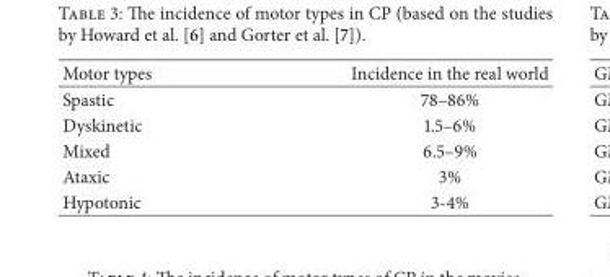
<table><thead><tr><td>Motor types</td><td>Incidence in the real world</td></tr></thead><tbody><tr><td>Spastic</td><td>78–86%</td></tr><tr><td>Dyskinetic</td><td>1.5–6%</td></tr><tr><td>Mixed</td><td>6.5–9%</td></tr><tr><td>Ataxic</td><td>3%</td></tr><tr><td>Hypotonic</td><td>3-4%</td></tr></tbody></table>